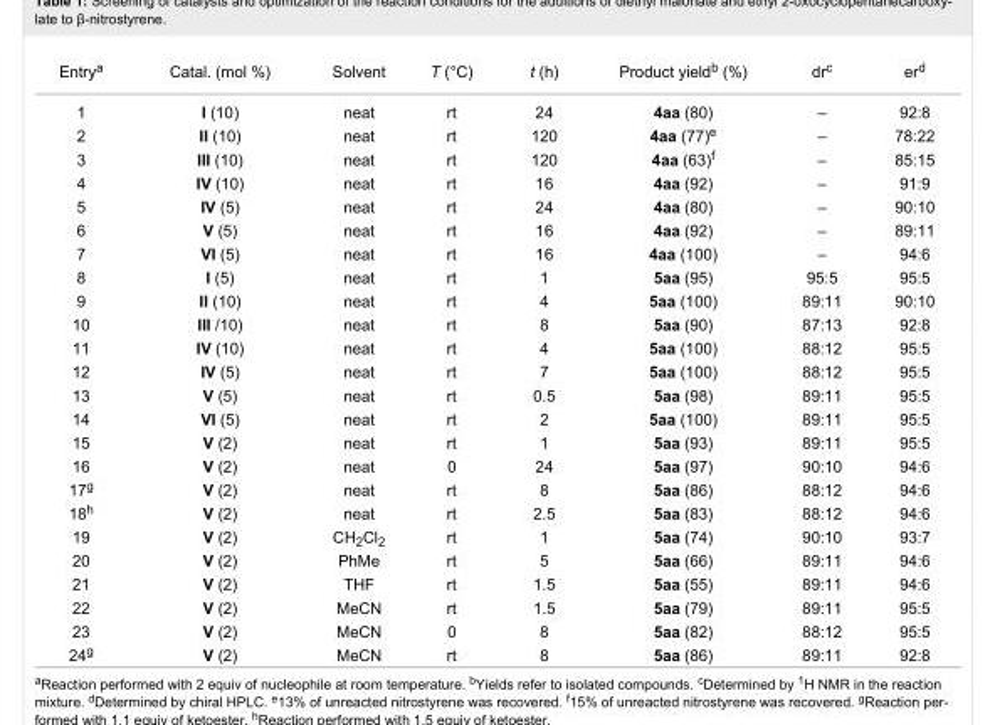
<table><tbody><tr><td>Entry<sup>a</sup></td><td>Catal. (mol %)</td><td>Solvent</td><td>T (°C)</td><td>t (h)</td><td>Product yield<sup>b</sup> (%)</td><td>dr<sup>c</sup></td><td>er<sup>d</sup></td></tr><tr><td>1</td><td>I (10)</td><td>neat</td><td>rt</td><td>24</td><td>4aa (80)</td><td>–</td><td>92:8</td></tr><tr><td>2</td><td>II (10)</td><td>neat</td><td>rt</td><td>120</td><td>4aa (77)<sup>e</sup></td><td>–</td><td>78:22</td></tr><tr><td>3</td><td>III (10)</td><td>neat</td><td>rt</td><td>120</td><td>4aa (63)<sup>f</sup></td><td>–</td><td>85:15</td></tr><tr><td>4</td><td>IV (10)</td><td>neat</td><td>rt</td><td>16</td><td>4aa (92)</td><td>–</td><td>91:9</td></tr><tr><td>5</td><td>IV (5)</td><td>neat</td><td>rt</td><td>24</td><td>4aa (80)</td><td>–</td><td>90:10</td></tr><tr><td>6</td><td>V (5)</td><td>neat</td><td>rt</td><td>16</td><td>4aa (92)</td><td>–</td><td>89:11</td></tr><tr><td>7</td><td>VI (5)</td><td>neat</td><td>rt</td><td>16</td><td>4aa (100)</td><td>–</td><td>94:6</td></tr><tr><td>8</td><td>I (5)</td><td>neat</td><td>rt</td><td>1</td><td>5aa (95)</td><td>95:5</td><td>95:5</td></tr><tr><td>9</td><td>II (10)</td><td>neat</td><td>rt</td><td>4</td><td>5aa (100)</td><td>89:11</td><td>90:10</td></tr><tr><td>10</td><td>III /10)</td><td>neat</td><td>rt</td><td>8</td><td>5aa (90)</td><td>87:13</td><td>92:8</td></tr><tr><td>11</td><td>IV (10)</td><td>neat</td><td>rt</td><td>4</td><td>5aa (100)</td><td>88:12</td><td>95:5</td></tr><tr><td>12</td><td>IV (5)</td><td>neat</td><td>rt</td><td>7</td><td>5aa (100)</td><td>88:12</td><td>95:5</td></tr><tr><td>13</td><td>V (5)</td><td>neat</td><td>rt</td><td>0.5</td><td>5aa (98)</td><td>89:11</td><td>95:5</td></tr><tr><td>14</td><td>VI (5)</td><td>neat</td><td>rt</td><td>2</td><td>5aa (100)</td><td>89:11</td><td>95:5</td></tr><tr><td>15</td><td>V (2)</td><td>neat</td><td>rt</td><td>1</td><td>5aa (93)</td><td>89:11</td><td>95:5</td></tr><tr><td>16</td><td>V (2)</td><td>neat</td><td>0</td><td>24</td><td>5aa (97)</td><td>90:10</td><td>94:6</td></tr><tr><td>17<sup>g</sup></td><td>V (2)</td><td>neat</td><td>rt</td><td>8</td><td>5aa (86)</td><td>88:12</td><td>94:6</td></tr><tr><td>18<sup>h</sup></td><td>V (2)</td><td>neat</td><td>rt</td><td>2.5</td><td>5aa (83)</td><td>88:12</td><td>94:6</td></tr><tr><td>19</td><td>V (2)</td><td>CH<sub>2</sub>Cl<sub>2</sub></td><td>rt</td><td>1</td><td>5aa (74)</td><td>90:10</td><td>93:7</td></tr><tr><td>20</td><td>V (2)</td><td>PhMe</td><td>rt</td><td>5</td><td>5aa (66)</td><td>89:11</td><td>94:6</td></tr><tr><td>21</td><td>V (2)</td><td>THF</td><td>rt</td><td>1.5</td><td>5aa (55)</td><td>89:11</td><td>94:6</td></tr><tr><td>22</td><td>V (2)</td><td>MeCN</td><td>rt</td><td>1.5</td><td>5aa (79)</td><td>89:11</td><td>95:5</td></tr><tr><td>23</td><td>V (2)</td><td>MeCN</td><td>0</td><td>8</td><td>5aa (82)</td><td>88:12</td><td>95:5</td></tr><tr><td>24<sup>g</sup></td><td>V (2)</td><td>MeCN</td><td>rt</td><td>8</td><td>5aa (86)</td><td>89:11</td><td>92:8</td></tr></tbody></table>